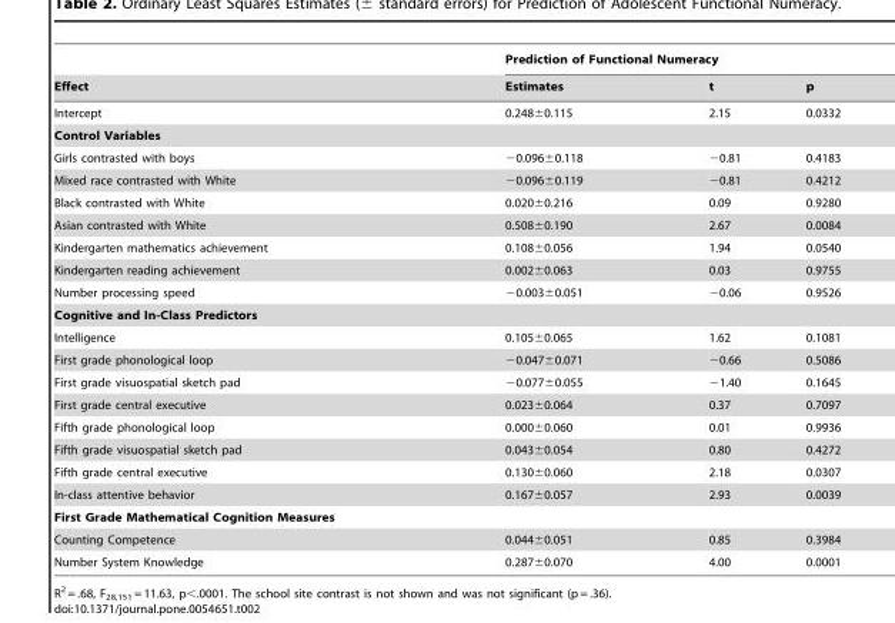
<table><thead><tr><td rowspan="2">Effect</td><td colspan="3">Prediction of Functional Numeracy</td></tr><tr><td>Estimates</td><td>t</td><td>p</td></tr></thead><tbody><tr><td>Intercept</td><td>0.248±0.115</td><td>2.15</td><td>0.0332</td></tr><tr><td colspan="4">Control Variables</td></tr><tr><td>Girls contrasted with boys</td><td>−0.096±0.118</td><td>−0.81</td><td>0.4183</td></tr><tr><td>Mixed race contrasted with White</td><td>−0.096±0.119</td><td>−0.81</td><td>0.4212</td></tr><tr><td>Black contrasted with White</td><td>0.020±0.216</td><td>0.09</td><td>0.9280</td></tr><tr><td>Asian contrasted with White</td><td>0.508±0.190</td><td>2.67</td><td>0.0084</td></tr><tr><td>Kindergarten mathematics achievement</td><td>0.108±0.056</td><td>1.94</td><td>0.0540</td></tr><tr><td>Kindergarten reading achievement</td><td>0.002±0.063</td><td>0.03</td><td>0.9755</td></tr><tr><td>Number processing speed</td><td>−0.003±0.051</td><td>−0.06</td><td>0.9526</td></tr><tr><td colspan="4">Cognitive and In-Class Predictors</td></tr><tr><td>Intelligence</td><td>0.105±0.065</td><td>1.62</td><td>0.1081</td></tr><tr><td>First grade phonological loop</td><td>−0.047±0.071</td><td>−0.66</td><td>0.5086</td></tr><tr><td>First grade visuospatial sketch pad</td><td>−0.077±0.055</td><td>−1.40</td><td>0.1645</td></tr><tr><td>First grade central executive</td><td>0.023±0.064</td><td>0.37</td><td>0.7097</td></tr><tr><td>Fifth grade phonological loop</td><td>0.000±0.060</td><td>0.01</td><td>0.9936</td></tr><tr><td>Fifth grade visuospatial sketch pad</td><td>0.043±0.054</td><td>0.80</td><td>0.4272</td></tr><tr><td>Fifth grade central executive</td><td>0.130±0.060</td><td>2.18</td><td>0.0307</td></tr><tr><td>In-class attentive behavior</td><td>0.167±0.057</td><td>2.93</td><td>0.0039</td></tr><tr><td colspan="4">First Grade Mathematical Cognition Measures</td></tr><tr><td>Counting Competence</td><td>0.044±0.051</td><td>0.85</td><td>0.3984</td></tr><tr><td>Number System Knowledge</td><td>0.287±0.070</td><td>4.00</td><td>0.0001</td></tr></tbody></table>